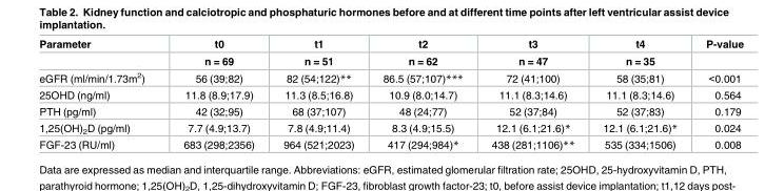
<table><thead><tr><td rowspan="2">Parameter</td><td rowspan="2">t0 n = 69</td><td rowspan="2">t1 n = 51</td><td rowspan="2">t2 n = 62</td><td rowspan="2">t3 n = 47</td><td rowspan="2">t4 n = 35</td><td rowspan="2">P-value</td></tr><tr></tr></thead><tbody><tr><td>eGFR (ml/min/1.73m<sup>2</sup>)</td><td>56 (39;82)</td><td>82 (54;122)**</td><td>86.5 (57;107)***</td><td>72 (41;100)</td><td>58 (35;81)</td><td>&lt;0.001</td></tr><tr><td>25OHD (ng/ml)</td><td>11.8 (8.9;17.9)</td><td>11.3 (8.5;16.8)</td><td>10.9 (8.0;14.7)</td><td>11.1 (8.3;14.6)</td><td>11.1 (8.3;14.6)</td><td>0.564</td></tr><tr><td>PTH (pg/ml)</td><td>42 (32;95)</td><td>68 (37;107)</td><td>48 (24;77)</td><td>52 (37;84)</td><td>52 (37;83)</td><td>0.179</td></tr><tr><td>1,25(OH)<sub>2</sub>D (pg/ml)</td><td>7.7 (4.9;13.7)</td><td>7.8 (4.9;11.4)</td><td>8.3 (4.9;15.5)</td><td>12.1 (6.1;21.6)*</td><td>12.1 (6.1;21.6)*</td><td>0.024</td></tr><tr><td>FGF-23 (RU/ml)</td><td>683 (298;2356)</td><td>964 (521;2023)</td><td>417 (294;984)*</td><td>438 (281;1106)**</td><td>535 (334;1506)</td><td>0.008</td></tr></tbody></table>